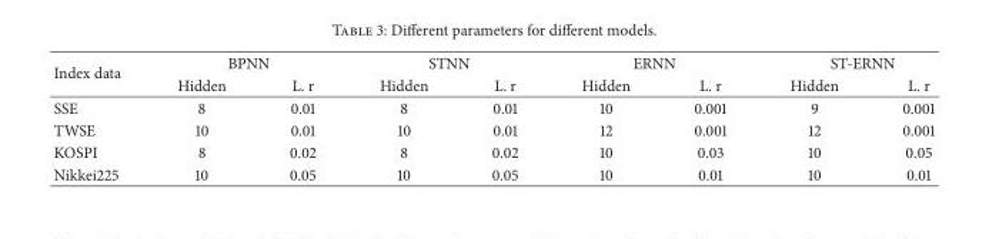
<table><thead><tr><td rowspan="2">Index data</td><td colspan="2">BPNN</td><td colspan="2">STNN</td><td colspan="2">ERNN</td><td colspan="2">ST-ERNN</td></tr><tr><td>Hidden</td><td>L. r</td><td>Hidden</td><td>L. r</td><td>Hidden</td><td>L. r</td><td>Hidden</td><td>L. r</td></tr></thead><tbody><tr><td>SSE</td><td>8</td><td>0.01</td><td>8</td><td>0.01</td><td>10</td><td>0.001</td><td>9</td><td>0.001</td></tr><tr><td>TWSE</td><td>10</td><td>0.01</td><td>10</td><td>0.01</td><td>12</td><td>0.001</td><td>12</td><td>0.001</td></tr><tr><td>KOSPI</td><td>8</td><td>0.02</td><td>8</td><td>0.02</td><td>10</td><td>0.03</td><td>10</td><td>0.05</td></tr><tr><td>Nikkei225</td><td>10</td><td>0.05</td><td>10</td><td>0.05</td><td>10</td><td>0.01</td><td>10</td><td>0.01</td></tr></tbody></table>